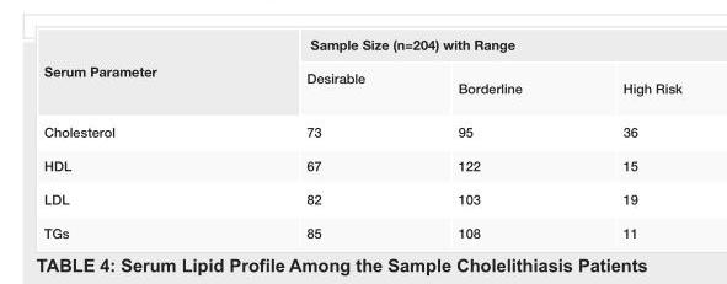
<table><tbody><tr><td rowspan="2">Serum Parameter</td><td colspan="3">Sample Size (n=204) with Range</td></tr><tr><td>Desirable</td><td>Borderline</td><td>High Risk</td></tr><tr><td>Cholesterol</td><td>73</td><td>95</td><td>36</td></tr><tr><td>HDL</td><td>67</td><td>122</td><td>15</td></tr><tr><td>LDL</td><td>82</td><td>103</td><td>19</td></tr><tr><td>TGs</td><td>85</td><td>108</td><td>11</td></tr></tbody></table>